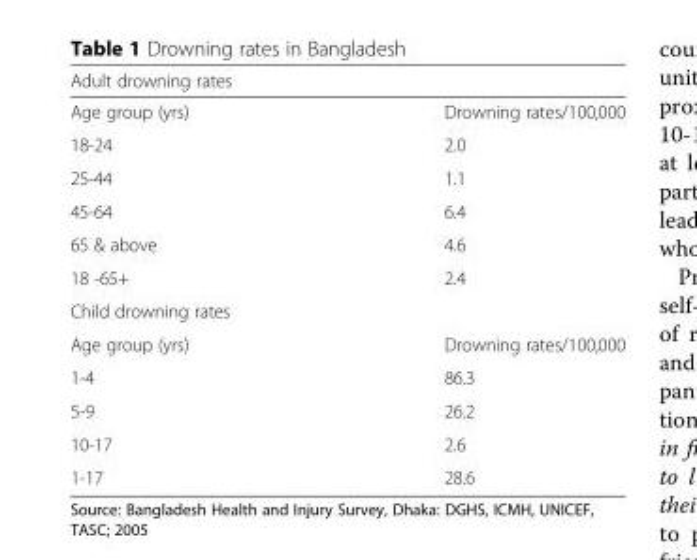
<table><thead><tr><td colspan="2">Adult drowning rates</td></tr><tr><td>Age group (yrs)</td><td>Drowning rates/100,000</td></tr></thead><tbody><tr><td>18-24</td><td>2.0</td></tr><tr><td>25-44</td><td>1.1</td></tr><tr><td>45-64</td><td>6.4</td></tr><tr><td>65 &amp; above</td><td>4.6</td></tr><tr><td>18 -65+</td><td>2.4</td></tr><tr><td colspan="2">Child drowning rates</td></tr><tr><td>Age group (yrs)</td><td>Drowning rates/100,000</td></tr><tr><td>1-4</td><td>86.3</td></tr><tr><td>5-9</td><td>26.2</td></tr><tr><td>10-17</td><td>2.6</td></tr><tr><td>1-17</td><td>28.6</td></tr></tbody></table>